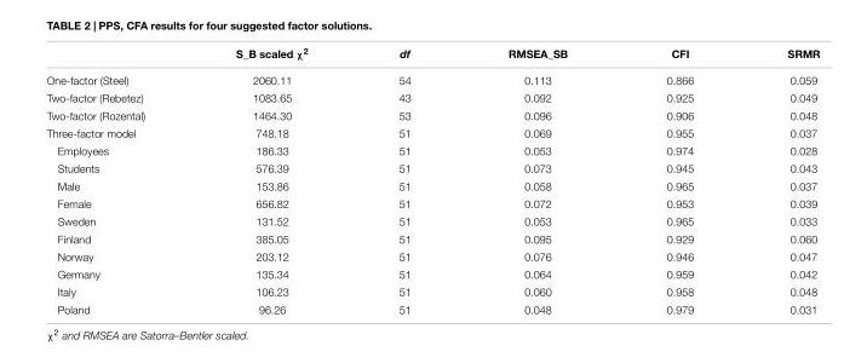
<table><thead><tr><td></td><td>S_B scaled χ<sup>2</sup></td><td>df</td><td>RMSEA_SB</td><td>CFI</td><td>SRMR</td></tr></thead><tbody><tr><td>One-factor (Steel)</td><td>2060.11</td><td>54</td><td>0.113</td><td>0.866</td><td>0.059</td></tr><tr><td>Two-factor (Rebetez)</td><td>1083.65</td><td>43</td><td>0.092</td><td>0.925</td><td>0.049</td></tr><tr><td>Two-factor (Rozental)</td><td>1464.30</td><td>53</td><td>0.096</td><td>0.906</td><td>0.048</td></tr><tr><td>Three-factor model</td><td>748.18</td><td>51</td><td>0.069</td><td>0.955</td><td>0.037</td></tr><tr><td>Employees</td><td>186.33</td><td>51</td><td>0.053</td><td>0.974</td><td>0.028</td></tr><tr><td>Students</td><td>576.39</td><td>51</td><td>0.073</td><td>0.945</td><td>0.043</td></tr><tr><td>Male</td><td>153.86</td><td>51</td><td>0.058</td><td>0.965</td><td>0.037</td></tr><tr><td>Female</td><td>656.82</td><td>51</td><td>0.072</td><td>0.953</td><td>0.039</td></tr><tr><td>Sweden</td><td>131.52</td><td>51</td><td>0.053</td><td>0.965</td><td>0.033</td></tr><tr><td>Finland</td><td>385.05</td><td>51</td><td>0.095</td><td>0.929</td><td>0.060</td></tr><tr><td>Norway</td><td>203.12</td><td>51</td><td>0.076</td><td>0.946</td><td>0.047</td></tr><tr><td>Germany</td><td>135.34</td><td>51</td><td>0.064</td><td>0.959</td><td>0.042</td></tr><tr><td>Italy</td><td>106.23</td><td>51</td><td>0.060</td><td>0.958</td><td>0.048</td></tr><tr><td>Poland</td><td>96.26</td><td>51</td><td>0.048</td><td>0.979</td><td>0.031</td></tr></tbody></table>